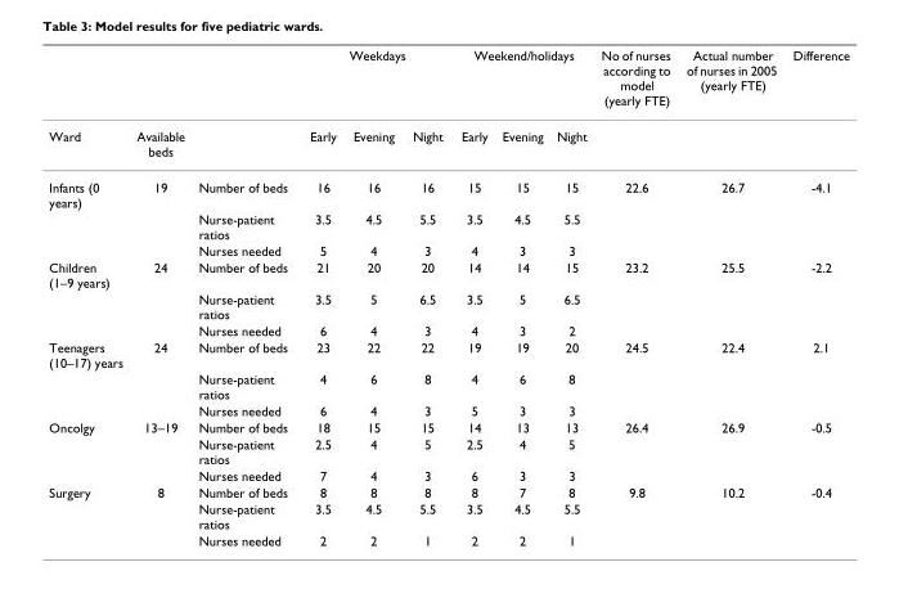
<table><thead><tr><td rowspan="2">Ward</td><td rowspan="2">Available beds</td><td rowspan="2"></td><td colspan="3">Weekdays</td><td colspan="3">Weekend/holidays</td><td rowspan="2">No of nurses according to model (yearly FTE)</td><td rowspan="2">Actual number of nurses in 2005 (yearly FTE)</td><td rowspan="2">Difference</td></tr><tr><td>Early</td><td>Evening</td><td>Night</td><td>Early</td><td>Evening</td><td>Night</td></tr></thead><tbody><tr><td rowspan="3">Infants (0 years)</td><td>19</td><td>Number of beds</td><td>16</td><td>16</td><td>16</td><td>15</td><td>15</td><td>15</td><td>22.6</td><td>26.7</td><td>-4.1</td></tr><tr><td></td><td>Nurse-patient ratios</td><td>3.5</td><td>4.5</td><td>5.5</td><td>3.5</td><td>4.5</td><td>5.5</td><td></td><td></td><td></td></tr><tr><td></td><td>Nurses needed</td><td>5</td><td>4</td><td>3</td><td>4</td><td>3</td><td>3</td><td></td><td></td><td></td></tr><tr><td rowspan="3">Children (1–9 years)</td><td>24</td><td>Number of beds</td><td>21</td><td>20</td><td>20</td><td>14</td><td>14</td><td>15</td><td>23.2</td><td>25.5</td><td>-2.2</td></tr><tr><td></td><td>Nurse-patient ratios</td><td>3.5</td><td>5</td><td>6.5</td><td>3.5</td><td>5</td><td>6.5</td><td></td><td></td><td></td></tr><tr><td></td><td>Nurses needed</td><td>6</td><td>4</td><td>3</td><td>4</td><td>3</td><td>2</td><td></td><td></td><td></td></tr><tr><td rowspan="3">Teenagers (10–17) years</td><td>24</td><td>Number of beds</td><td>23</td><td>22</td><td>22</td><td>19</td><td>19</td><td>20</td><td>24.5</td><td>22.4</td><td>2.1</td></tr><tr><td></td><td>Nurse-patient ratios</td><td>4</td><td>6</td><td>8</td><td>4</td><td>6</td><td>8</td><td></td><td></td><td></td></tr><tr><td></td><td>Nurses needed</td><td>6</td><td>4</td><td>3</td><td>5</td><td>3</td><td>3</td><td></td><td></td><td></td></tr><tr><td rowspan="3">Oncolgy</td><td>13–19</td><td>Number of beds</td><td>18</td><td>15</td><td>15</td><td>14</td><td>13</td><td>13</td><td>26.4</td><td>26.9</td><td>-0.5</td></tr><tr><td></td><td>Nurse-patient ratios</td><td>2.5</td><td>4</td><td>5</td><td>2.5</td><td>4</td><td>5</td><td></td><td></td><td></td></tr><tr><td></td><td>Nurses needed</td><td>7</td><td>4</td><td>3</td><td>6</td><td>3</td><td>3</td><td></td><td></td><td></td></tr><tr><td rowspan="3">Surgery</td><td>8</td><td>Number of beds</td><td>8</td><td>8</td><td>8</td><td>8</td><td>7</td><td>8</td><td>9.8</td><td>10.2</td><td>-0.4</td></tr><tr><td></td><td>Nurse-patient ratios</td><td>3.5</td><td>4.5</td><td>5.5</td><td>3.5</td><td>4.5</td><td>5.5</td><td></td><td></td><td></td></tr><tr><td></td><td>Nurses needed</td><td>2</td><td>2</td><td>1</td><td>2</td><td>2</td><td>1</td><td></td><td></td><td></td></tr></tbody></table>